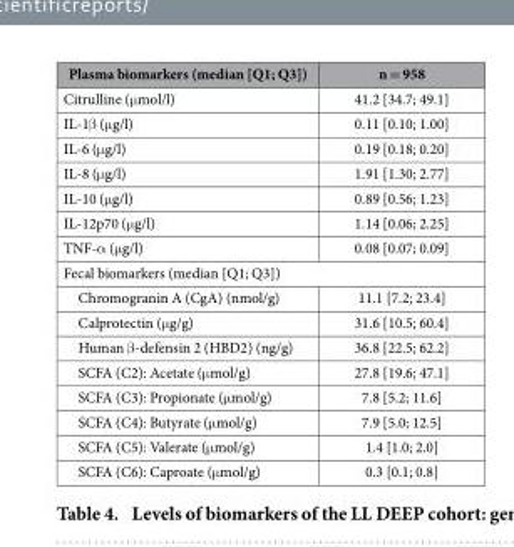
<table><thead><tr><td>Plasma biomarkers (median [Q1; Q3])</td><td>n = 958</td></tr></thead><tbody><tr><td>Citrulline (μ mol/l)</td><td>41.2 [34.7; 49.1]</td></tr><tr><td>IL-1β (μ g/l)</td><td>0.11 [0.10; 1.00]</td></tr><tr><td>IL-6 (μ g/l)</td><td>0.19 [0.18; 0.20]</td></tr><tr><td>IL-8 (μ g/l)</td><td>1.91 [1.30; 2.77]</td></tr><tr><td>IL-10 (μ g/l)</td><td>0.89 [0.56; 1.23]</td></tr><tr><td>IL-12p70 (μ g/l)</td><td>1.14 [0.06; 2.25]</td></tr><tr><td>TNF-α (μ g/l)</td><td>0.08 [0.07; 0.09]</td></tr><tr><td colspan="2">Fecal biomarkers (median [Q1; Q3])</td></tr><tr><td>Chromogranin A (CgA) (nmol/g)</td><td>11.1 [7.2; 23.4]</td></tr><tr><td>Calprotectin (μ g/g)</td><td>31.6 [10.5; 60.4]</td></tr><tr><td>Human β -defensin 2 (HBD2) (ng/g)</td><td>36.8 [22.5; 62.2]</td></tr><tr><td>SCFA (C2): Acetate (μ mol/g)</td><td>27.8 [19.6; 47.1]</td></tr><tr><td>SCFA (C3): Propionate (μ mol/g)</td><td>7.8 [5.2; 11.6]</td></tr><tr><td>SCFA (C4): Butyrate (μ mol/g)</td><td>7.9 [5.0; 12.5]</td></tr><tr><td>SCFA (C5): Valerate (μ mol/g)</td><td>1.4 [1.0; 2.0]</td></tr><tr><td>SCFA (C6): Caproate (μ mol/g)</td><td>0.3 [0.1; 0.8]</td></tr></tbody></table>